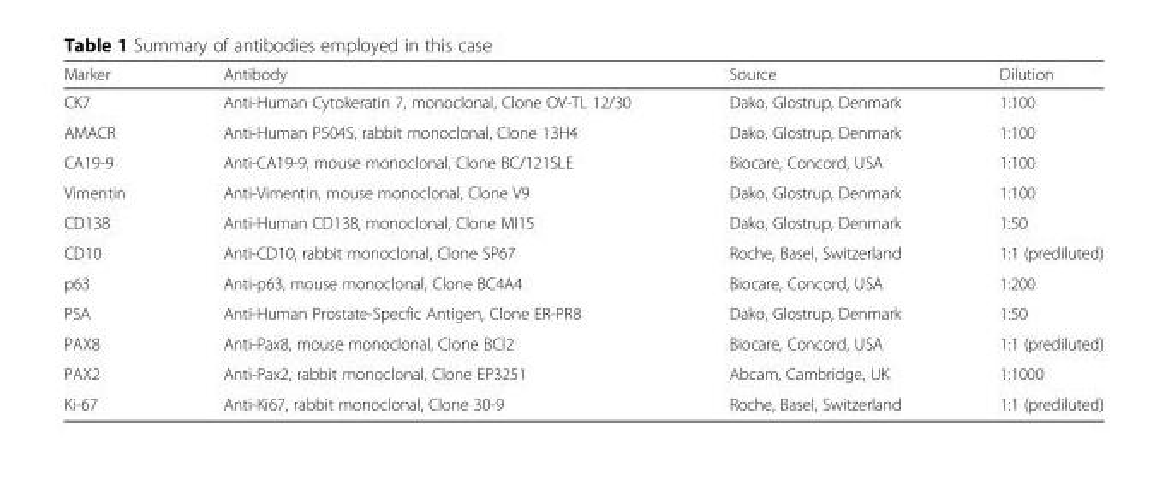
<table><thead><tr><td>Marker</td><td>Antibody</td><td>Source</td><td>Dilution</td></tr></thead><tbody><tr><td>CK7</td><td>Anti-Human Cytokeratin 7, monoclonal, Clone OV-TL 12/30</td><td>Dako, Glostrup, Denmark</td><td>1:100</td></tr><tr><td>AMACR</td><td>Anti-Human P504S, rabbit monoclonal, Clone 13H4</td><td>Dako, Glostrup, Denmark</td><td>1:100</td></tr><tr><td>CA19-9</td><td>Anti-CA19-9, mouse monoclonal, Clone BC/121SLE</td><td>Biocare, Concord, USA</td><td>1:100</td></tr><tr><td>Vimentin</td><td>Anti-Vimentin, mouse monoclonal, Clone V9</td><td>Dako, Glostrup, Denmark</td><td>1:100</td></tr><tr><td>CD138</td><td>Anti-Human CD138, monoclonal, Clone MI15</td><td>Dako, Glostrup, Denmark</td><td>1:50</td></tr><tr><td>CD10</td><td>Anti-CD10, rabbit monoclonal, Clone SP67</td><td>Roche, Basel, Switzerland</td><td>1:1 (prediluted)</td></tr><tr><td>p63</td><td>Anti-p63, mouse monoclonal, Clone BC4A4</td><td>Biocare, Concord, USA</td><td>1:200</td></tr><tr><td>PSA</td><td>Anti-Human Prostate-Specfic Antigen, Clone ER-PR8</td><td>Dako, Glostrup, Denmark</td><td>1:50</td></tr><tr><td>PAX8</td><td>Anti-Pax8, mouse monoclonal, Clone BCl2</td><td>Biocare, Concord, USA</td><td>1:1 (prediluted)</td></tr><tr><td>PAX2</td><td>Anti-Pax2, rabbit monoclonal, Clone EP3251</td><td>Abcam, Cambridge, UK</td><td>1:1000</td></tr><tr><td>Ki-67</td><td>Anti-Ki67, rabbit monoclonal, Clone 30-9</td><td>Roche, Basel, Switzerland</td><td>1:1 (prediluted)</td></tr></tbody></table>